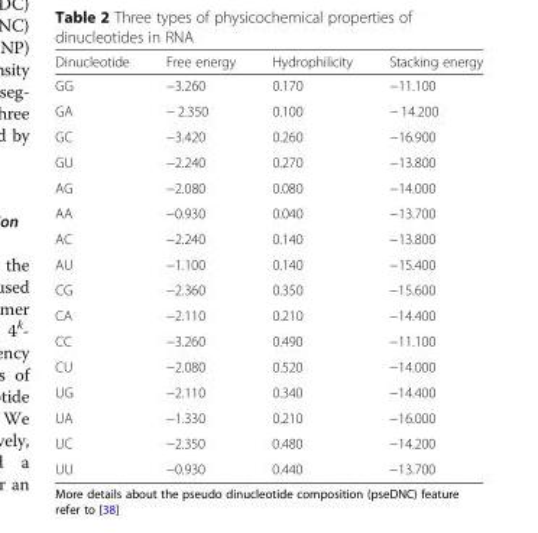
<table><thead><tr><td>Dinucleotide</td><td>Free energy</td><td>Hydrophilicity</td><td>Stacking energy</td></tr></thead><tbody><tr><td>GG</td><td>−3.260</td><td>0.170</td><td>−11.100</td></tr><tr><td>GA</td><td>− 2.350</td><td>0.100</td><td>− 14.200</td></tr><tr><td>GC</td><td>−3.420</td><td>0.260</td><td>−16.900</td></tr><tr><td>GU</td><td>−2.240</td><td>0.270</td><td>−13.800</td></tr><tr><td>AG</td><td>−2.080</td><td>0.080</td><td>−14.000</td></tr><tr><td>AA</td><td>−0.930</td><td>0.040</td><td>−13.700</td></tr><tr><td>AC</td><td>−2.240</td><td>0.140</td><td>−13.800</td></tr><tr><td>AU</td><td>−1.100</td><td>0.140</td><td>−15.400</td></tr><tr><td>CG</td><td>−2.360</td><td>0.350</td><td>−15.600</td></tr><tr><td>CA</td><td>−2.110</td><td>0.210</td><td>−14.400</td></tr><tr><td>CC</td><td>−3.260</td><td>0.490</td><td>−11.100</td></tr><tr><td>CU</td><td>−2.080</td><td>0.520</td><td>−14.000</td></tr><tr><td>UG</td><td>−2.110</td><td>0.340</td><td>−14.400</td></tr><tr><td>UA</td><td>−1.330</td><td>0.210</td><td>−16.000</td></tr><tr><td>UC</td><td>−2.350</td><td>0.480</td><td>−14.200</td></tr><tr><td>UU</td><td>−0.930</td><td>0.440</td><td>−13.700</td></tr></tbody></table>